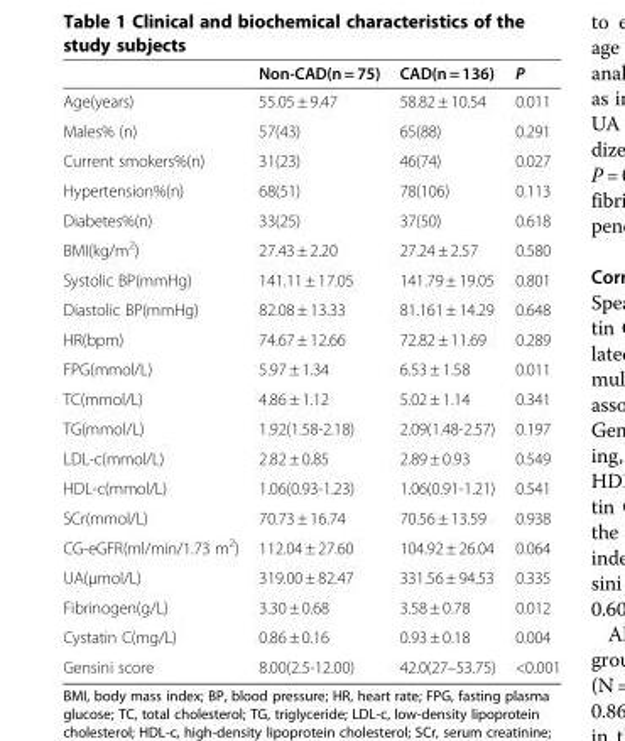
<table><thead><tr><td></td><td>Non-CAD(n = 75)</td><td>CAD(n = 136)</td><td>P</td></tr></thead><tbody><tr><td>Age(years)</td><td>55.05 ± 9.47</td><td>58.82 ± 10.54</td><td>0.011</td></tr><tr><td>Males% (n)</td><td>57(43)</td><td>65(88)</td><td>0.291</td></tr><tr><td>Current smokers%(n)</td><td>31(23)</td><td>46(74)</td><td>0.027</td></tr><tr><td>Hypertension%(n)</td><td>68(51)</td><td>78(106)</td><td>0.113</td></tr><tr><td>Diabetes%(n)</td><td>33(25)</td><td>37(50)</td><td>0.618</td></tr><tr><td>BMI(kg/m<sup>2</sup>)</td><td>27.43 ± 2.20</td><td>27.24 ± 2.57</td><td>0.580</td></tr><tr><td>Systolic BP(mmHg)</td><td>141.11 ± 17.05</td><td>141.79 ± 19.05</td><td>0.801</td></tr><tr><td>Diastolic BP(mmHg)</td><td>82.08 ± 13.33</td><td>81.161 ± 14.29</td><td>0.648</td></tr><tr><td>HR(bpm)</td><td>74.67 ± 12.66</td><td>72.82 ± 11.69</td><td>0.289</td></tr><tr><td>FPG(mmol/L)</td><td>5.97 ± 1.34</td><td>6.53 ± 1.58</td><td>0.011</td></tr><tr><td>TC(mmol/L)</td><td>4.86 ± 1.12</td><td>5.02 ± 1.14</td><td>0.341</td></tr><tr><td>TG(mmol/L)</td><td>1.92(1.58-2.18)</td><td>2.09(1.48-2.57)</td><td>0.197</td></tr><tr><td>LDL-c(mmol/L)</td><td>2.82 ± 0.85</td><td>2.89 ± 0.93</td><td>0.549</td></tr><tr><td>HDL-c(mmol/L)</td><td>1.06(0.93-1.23)</td><td>1.06(0.91-1.21)</td><td>0.541</td></tr><tr><td>SCr(mmol/L)</td><td>70.73 ± 16.74</td><td>70.56 ± 13.59</td><td>0.938</td></tr><tr><td>CG-eGFR(ml/min/1.73 m<sup>2</sup>)</td><td>112.04 ± 27.60</td><td>104.92 ± 26.04</td><td>0.064</td></tr><tr><td>UA(μmol/L)</td><td>319.00 ± 82.47</td><td>331.56 ± 94.53</td><td>0.335</td></tr><tr><td>Fibrinogen(g/L)</td><td>3.30 ± 0.68</td><td>3.58 ± 0.78</td><td>0.012</td></tr><tr><td>Cystatin C(mg/L)</td><td>0.86 ± 0.16</td><td>0.93 ± 0.18</td><td>0.004</td></tr><tr><td>Gensini score</td><td>8.00(2.5-12.00)</td><td>42.0(27–53.75)</td><td>&lt;0.001</td></tr></tbody></table>